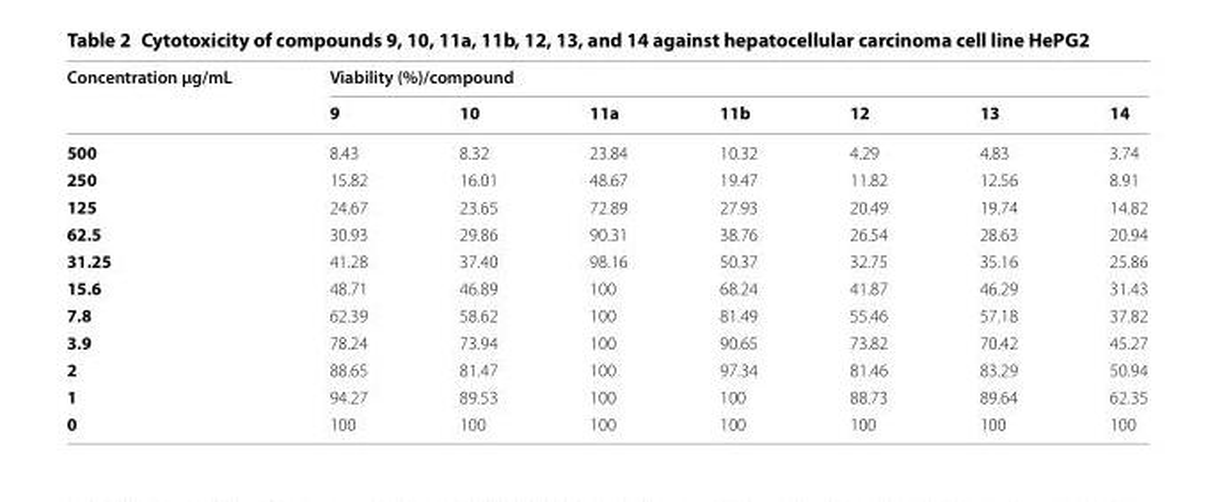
<table><thead><tr><td rowspan="2">Concentration µg/mL</td><td colspan="7">Viability (%)/compound</td></tr><tr><td>9</td><td>10</td><td>11a</td><td>11b</td><td>12</td><td>13</td><td>14</td></tr></thead><tbody><tr><td>500</td><td>8.43</td><td>8.32</td><td>23.84</td><td>10.32</td><td>4.29</td><td>4.83</td><td>3.74</td></tr><tr><td>250</td><td>15.82</td><td>16.01</td><td>48.67</td><td>19.47</td><td>11.82</td><td>12.56</td><td>8.91</td></tr><tr><td>125</td><td>24.67</td><td>23.65</td><td>72.89</td><td>27.93</td><td>20.49</td><td>19.74</td><td>14.82</td></tr><tr><td>62.5</td><td>30.93</td><td>29.86</td><td>90.31</td><td>38.76</td><td>26.54</td><td>28.63</td><td>20.94</td></tr><tr><td>31.25</td><td>41.28</td><td>37.40</td><td>98.16</td><td>50.37</td><td>32.75</td><td>35.16</td><td>25.86</td></tr><tr><td>15.6</td><td>48.71</td><td>46.89</td><td>100</td><td>68.24</td><td>41.87</td><td>46.29</td><td>31.43</td></tr><tr><td>7.8</td><td>62.39</td><td>58.62</td><td>100</td><td>81.49</td><td>55.46</td><td>57.18</td><td>37.82</td></tr><tr><td>3.9</td><td>78.24</td><td>73.94</td><td>100</td><td>90.65</td><td>73.82</td><td>70.42</td><td>45.27</td></tr><tr><td>2</td><td>88.65</td><td>81.47</td><td>100</td><td>97.34</td><td>81.46</td><td>83.29</td><td>50.94</td></tr><tr><td>1</td><td>94.27</td><td>89.53</td><td>100</td><td>100</td><td>88.73</td><td>89.64</td><td>62.35</td></tr><tr><td>0</td><td>100</td><td>100</td><td>100</td><td>100</td><td>100</td><td>100</td><td>100</td></tr></tbody></table>